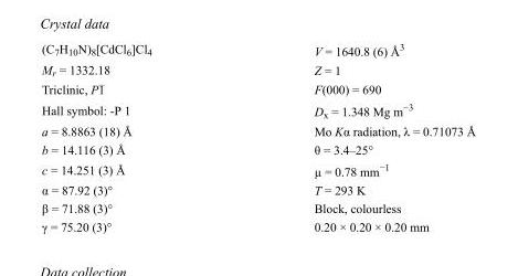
<table><tbody><tr><td>(C<sub>7</sub>H<sub>10</sub>N)<sub>8</sub>[CdCl<sub>6</sub>]Cl<sub>4</sub></td><td>V = 1640.8 (6) Å<sup>3</sup></td></tr><tr><td>M<sub>r</sub> = 1332.18</td><td>Z = 1</td></tr><tr><td>Triclinic, P1</td><td>F(000) = 690</td></tr><tr><td>Hall symbol: -P 1</td><td>D<sub>x</sub> = 1.348 Mg m<sup>−3</sup></td></tr><tr><td>a = 8.8863 (18) Å</td><td>Mo Kα radiation, λ = 0.71073 Å</td></tr><tr><td>b = 14.116 (3) Å</td><td>θ = 3.4–25°</td></tr><tr><td>c = 14.251 (3) Å</td><td>µ = 0.78 mm<sup>−1</sup></td></tr><tr><td>α = 87.92 (3)°</td><td>T = 293 K</td></tr><tr><td>β = 71.88 (3)°</td><td>Block, colourless</td></tr><tr><td>γ = 75.20 (3)°</td><td>0.20 × 0.20 × 0.20 mm</td></tr></tbody></table>